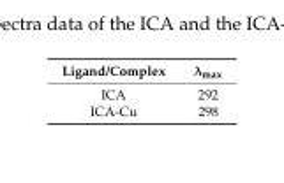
<table><thead><tr><td>Ligand/Complex</td><td>λ<sub>max</sub></td></tr></thead><tbody><tr><td>ICA</td><td>292</td></tr><tr><td>ICA-Cu</td><td>298</td></tr></tbody></table>